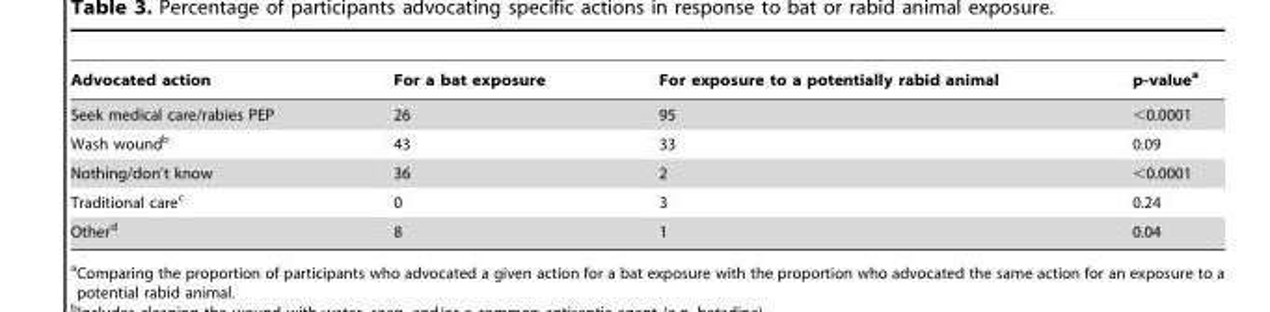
<table><thead><tr><td>Advocated action</td><td>For a bat exposure</td><td>For exposure to a potentially rabid animal</td><td>p-value<sup>a</sup></td></tr></thead><tbody><tr><td>Seek medical care/rabies PEP</td><td>26</td><td>95</td><td>&lt;0.0001</td></tr><tr><td>Wash wound<sup>b</sup></td><td>43</td><td>33</td><td>0.09</td></tr><tr><td>Nothing/don’t know</td><td>36</td><td>2</td><td>&lt;0.0001</td></tr><tr><td>Traditional care<sup>c</sup></td><td>0</td><td>3</td><td>0.24</td></tr><tr><td>Other<sup>d</sup></td><td>8</td><td>1</td><td>0.04</td></tr></tbody></table>